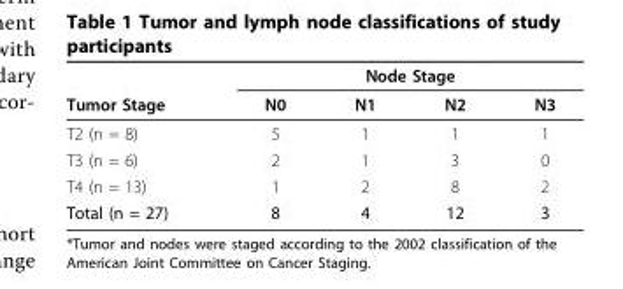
<table><thead><tr><td rowspan="2">Tumor Stage</td><td colspan="4">Node Stage</td></tr><tr><td>N0</td><td>N1</td><td>N2</td><td>N3</td></tr></thead><tbody><tr><td>T2 (n = 8)</td><td>5</td><td>1</td><td>1</td><td>1</td></tr><tr><td>T3 (n = 6)</td><td>2</td><td>1</td><td>3</td><td>0</td></tr><tr><td>T4 (n = 13)</td><td>1</td><td>2</td><td>8</td><td>2</td></tr><tr><td>Total (n = 27)</td><td>8</td><td>4</td><td>12</td><td>3</td></tr></tbody></table>